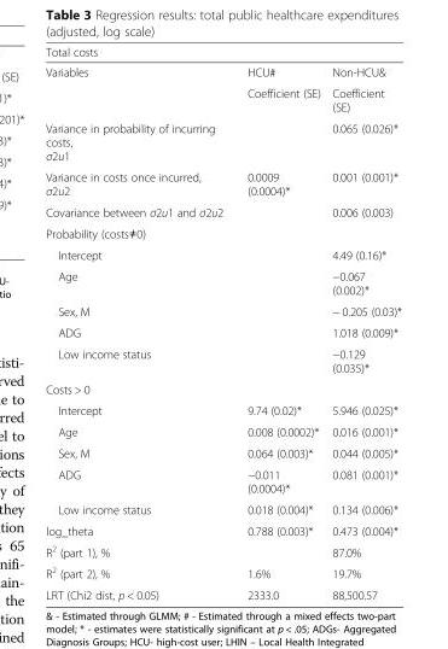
<table><thead><tr><td colspan="3">Total costs</td></tr><tr><td>Variables</td><td>HCU#</td><td>Non-HCU&amp;</td></tr></thead><tbody><tr><td></td><td>Coefficient (SE)</td><td>Coefficient (SE)</td></tr><tr><td>Variance in probability of incurring costs, σ2u1</td><td></td><td>0.065 (0.026)*</td></tr><tr><td>Variance in costs once incurred, σ2u2</td><td>0.0009 (0.0004)*</td><td>0.001 (0.001)*</td></tr><tr><td>Covariance between σ2u1 and σ2u2</td><td></td><td>0.006 (0.003)</td></tr><tr><td colspan="3">Probability (costs≠0)</td></tr><tr><td>Intercept</td><td></td><td>4.49 (0.16)*</td></tr><tr><td>Age</td><td></td><td>−0.067 (0.002)*</td></tr><tr><td>Sex, M</td><td></td><td>− 0.205 (0.03)*</td></tr><tr><td>ADG</td><td></td><td>1.018 (0.009)*</td></tr><tr><td>Low income status</td><td></td><td>−0.129 (0.035)*</td></tr><tr><td colspan="3">Costs &gt; 0</td></tr><tr><td>Intercept</td><td>9.74 (0.02)*</td><td>5.946 (0.025)*</td></tr><tr><td>Age</td><td>0.008 (0.0002)*</td><td>0.016 (0.001)*</td></tr><tr><td>Sex, M</td><td>0.064 (0.003)*</td><td>0.044 (0.005)*</td></tr><tr><td>ADG</td><td>−0.011 (0.0004)*</td><td>0.081 (0.001)*</td></tr><tr><td>Low income status</td><td>0.018 (0.004)*</td><td>0.134 (0.006)*</td></tr><tr><td>log_theta</td><td>0.788 (0.003)*</td><td>0.473 (0.004)*</td></tr><tr><td>R<sup>2</sup> (part 1), %</td><td></td><td>87.0%</td></tr><tr><td>R<sup>2</sup> (part 2), %</td><td>1.6%</td><td>19.7%</td></tr><tr><td>LRT (Chi2 dist, p &lt; 0.05)</td><td>2333.0</td><td>88,500.57</td></tr></tbody></table>